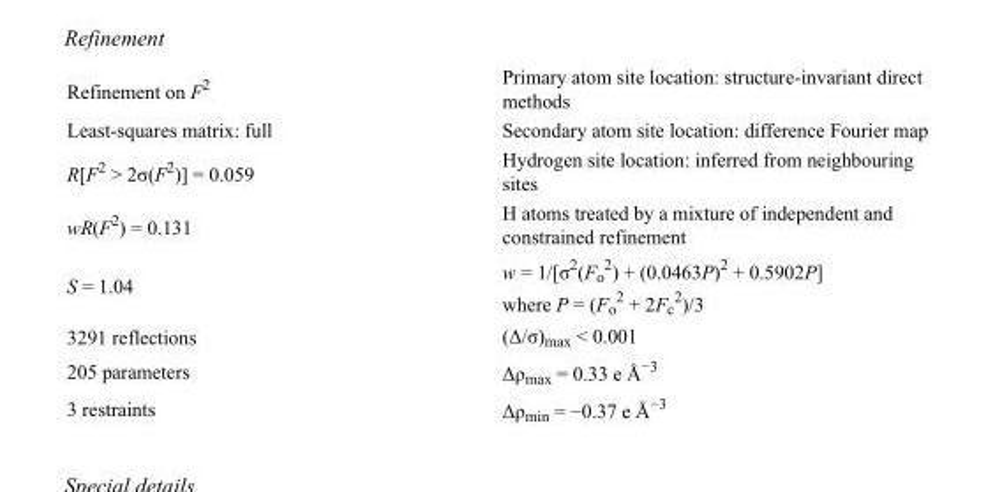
<table><tbody><tr><td>Refinement on F<sup>2</sup></td><td>Primary atom site location: structure-invariant direct methods</td></tr><tr><td>Least-squares matrix: full</td><td>Secondary atom site location: difference Fourier map</td></tr><tr><td>R[F<sup>2</sup> &gt; 2σ(F<sup>2</sup>)] = 0.059</td><td>Hydrogen site location: inferred from neighbouring sites</td></tr><tr><td>wR(F<sup>2</sup>) = 0.131</td><td>H atoms treated by a mixture of independent and constrained refinement</td></tr><tr><td>S = 1.04</td><td>w = 1/[σ<sup>2</sup>(F<sub>o</sub> <sup>2</sup>) + (0.0463P)<sup>2</sup> + 0.5902P] where P = (F<sub>o</sub> <sup>2</sup> + 2F<sub>c</sub> <sup>2</sup>)/3</td></tr><tr><td>3291 reflections</td><td>(Δ/σ)<sub>max</sub> &lt; 0.001</td></tr><tr><td>205 parameters</td><td>Δρ<sub>max</sub> = 0.33 e Å<sup>−3</sup></td></tr><tr><td>3 restraints</td><td>Δρ<sub>min</sub> = −0.37 e Å<sup>−3</sup></td></tr></tbody></table>